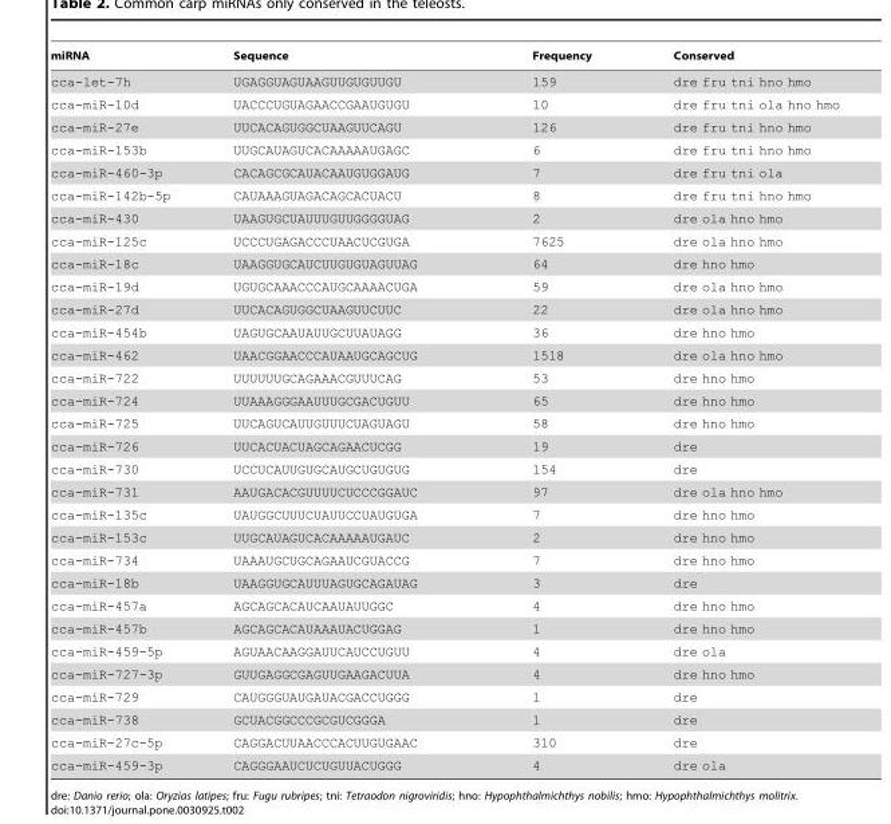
<table><thead><tr><td>miRNA</td><td>Sequence</td><td>Frequency</td><td>Conserved</td></tr></thead><tbody><tr><td>cca-let-7h</td><td>UGAGGUAGUAAGUUGUGUUGU</td><td>159</td><td>dre fru tni hno hmo</td></tr><tr><td>cca-miR-10d</td><td>UACCCUGUAGAACCGAAUGUGU</td><td>10</td><td>dre fru tni ola hno hmo</td></tr><tr><td>cca-miR-27e</td><td>UUCACAGUGGCUAAGUUCAGU</td><td>126</td><td>dre fru tni hno hmo</td></tr><tr><td>cca-miR-153b</td><td>UUGCAUAGUCACAAAAAUGAGC</td><td>6</td><td>dre fru tni hno hmo</td></tr><tr><td>cca-miR-460-3p</td><td>CACAGCGCAUACAAUGUGGAUG</td><td>7</td><td>dre fru tni ola</td></tr><tr><td>cca-miR-142b-5p</td><td>CAUAAAGUAGACAGCACUACU</td><td>8</td><td>dre fru tni hno hmo</td></tr><tr><td>cca-miR-430</td><td>UAAGUGCUAUUUGUUGGGGUAG</td><td>2</td><td>dre ola hno hmo</td></tr><tr><td>cca-miR-125c</td><td>UCCCUGAGACCCUAACUCGUGA</td><td>7625</td><td>dre ola hno hmo</td></tr><tr><td>cca-miR-18c</td><td>UAAGGUGCAUCUUGUGUAGUUAG</td><td>64</td><td>dre hno hmo</td></tr><tr><td>cca-miR-19d</td><td>UGUGCAAACCCAUGCAAAACUGA</td><td>59</td><td>dre ola hno hmo</td></tr><tr><td>cca-miR-27d</td><td>UUCACAGUGGCUAAGUUCUUC</td><td>22</td><td>dre ola hno hmo</td></tr><tr><td>cca-miR-454b</td><td>UAGUGCAAUAUUGCUUAUAGG</td><td>36</td><td>dre hno hmo</td></tr><tr><td>cca-miR-462</td><td>UAACGGAACCCAUAAUGCAGCUG</td><td>1518</td><td>dre ola hno hmo</td></tr><tr><td>cca-miR-722</td><td>UUUUUUGCAGAAACGUUUCAG</td><td>53</td><td>dre hno hmo</td></tr><tr><td>cca-miR-724</td><td>UUAAAGGGAAUUUGCGACUGUU</td><td>65</td><td>dre hno hmo</td></tr><tr><td>cca-miR-725</td><td>UUCAGUCAUUGUUUCUAGUAGU</td><td>58</td><td>dre hno hmo</td></tr><tr><td>cca-miR-726</td><td>UUCACUACUAGCAGAACUCGG</td><td>19</td><td>dre</td></tr><tr><td>cca-miR-730</td><td>UCCUCAUUGUGCAUGCUGUGUG</td><td>154</td><td>dre</td></tr><tr><td>cca-miR-731</td><td>AAUGACACGUUUUCUCCCGGAUC</td><td>97</td><td>dre ola hno hmo</td></tr><tr><td>cca-miR-135c</td><td>UAUGGCUUUCUAUUCCUAUGUGA</td><td>7</td><td>dre hno hmo</td></tr><tr><td>cca-miR-153c</td><td>UUGCAUAGUCACAAAAAUGAUC</td><td>2</td><td>dre hno hmo</td></tr><tr><td>cca-miR-734</td><td>UAAAUGCUGCAGAAUCGUACCG</td><td>7</td><td>dre hno hmo</td></tr><tr><td>cca-miR-18b</td><td>UAAGGUGCAUUUAGUGCAGAUAG</td><td>3</td><td>dre</td></tr><tr><td>cca-miR-457a</td><td>AGCAGCACAUCAAUAUUGGC</td><td>4</td><td>dre hno hmo</td></tr><tr><td>cca-miR-457b</td><td>AGCAGCACAUAAAUACUGGAG</td><td>1</td><td>dre hno hmo</td></tr><tr><td>cca-miR-459-5p</td><td>AGUAACAAGGAUUCAUCCUGUU</td><td>4</td><td>dre ola</td></tr><tr><td>cca-miR-727-3p</td><td>GUUGAGGCGAGUUGAAGACUUA</td><td>4</td><td>dre hno hmo</td></tr><tr><td>cca-miR-729</td><td>CAUGGGUAUGAUACGACCUGGG</td><td>1</td><td>dre</td></tr><tr><td>cca-miR-738</td><td>GCUACGGCCCGCGUCGGGA</td><td>1</td><td>dre</td></tr><tr><td>cca-miR-27c-5p</td><td>CAGGACUUAACCCACUUGUGAAC</td><td>310</td><td>dre</td></tr><tr><td>cca-miR-459-3p</td><td>CAGGGAAUCUCUGUUACUGGG</td><td>4</td><td>dre ola</td></tr></tbody></table>